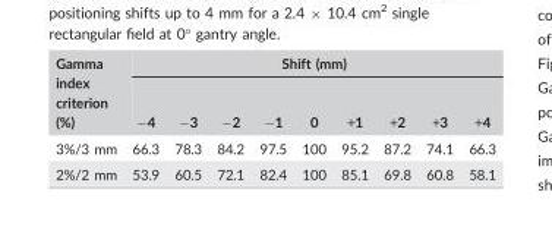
<table><thead><tr><td rowspan="2">Gamma index criterion (%)</td><td colspan="9">Shift (mm)</td></tr><tr><td>−4</td><td>−3</td><td>−2</td><td>−1</td><td>0</td><td>+1</td><td>+2</td><td>+3</td><td>+4</td></tr></thead><tbody><tr><td>3%/3 mm</td><td>66.3</td><td>78.3</td><td>84.2</td><td>97.5</td><td>100</td><td>95.2</td><td>87.2</td><td>74.1</td><td>66.3</td></tr><tr><td>2%/2 mm</td><td>53.9</td><td>60.5</td><td>72.1</td><td>82.4</td><td>100</td><td>85.1</td><td>69.8</td><td>60.8</td><td>58.1</td></tr></tbody></table>